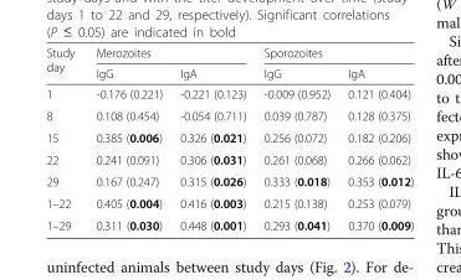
<table><thead><tr><td rowspan="2">Study day</td><td colspan="2">Merozoites</td><td colspan="2">Sporozoites</td></tr><tr><td>IgG</td><td>IgA</td><td>IgG</td><td>IgA</td></tr></thead><tbody><tr><td>1</td><td>-0.176 (0.221)</td><td>-0.221 (0.123)</td><td>-0.009 (0.952)</td><td>0.121 (0.404)</td></tr><tr><td>8</td><td>0.108 (0.454)</td><td>-0.054 (0.711)</td><td>0.039 (0.787)</td><td>0.128 (0.375)</td></tr><tr><td>15</td><td>0.385 (0.006)</td><td>0.326 (0.021)</td><td>0.256 (0.072)</td><td>0.182 (0.206)</td></tr><tr><td>22</td><td>0.241 (0.091)</td><td>0.306 (0.031)</td><td>0.261 (0.068)</td><td>0.266 (0.062)</td></tr><tr><td>29</td><td>0.167 (0.247)</td><td>0.315 (0.026)</td><td>0.333 (0.018)</td><td>0.353 (0.012)</td></tr><tr><td>1–22</td><td>0.405 (0.004)</td><td>0.416 (0.003)</td><td>0.215 (0.138)</td><td>0.253 (0.079)</td></tr><tr><td>1–29</td><td>0.311 (0.030)</td><td>0.448 (0.001)</td><td>0.293 (0.041)</td><td>0.370 (0.009)</td></tr></tbody></table>